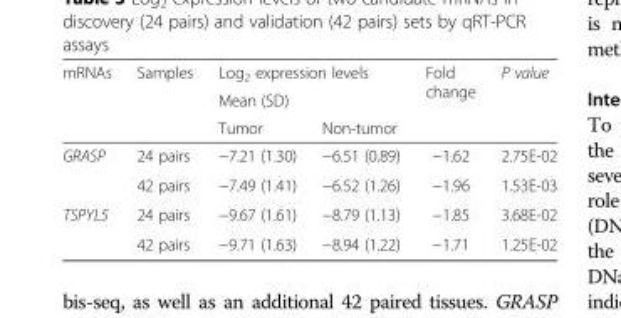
<table><thead><tr><td rowspan="3">mRNAs</td><td rowspan="3">Samples</td><td rowspan="2" colspan="2">Log<sub>2</sub> expression levels Mean (SD)</td><td rowspan="3">Fold change</td><td rowspan="3">P value</td></tr><tr></tr><tr><td>Tumor</td><td>Non-tumor</td></tr></thead><tbody><tr><td rowspan="2">GRASP</td><td>24 pairs</td><td>−7.21 (1.30)</td><td>−6.51 (0.89)</td><td>−1.62</td><td>2.75E-02</td></tr><tr><td>42 pairs</td><td>−7.49 (1.41)</td><td>−6.52 (1.26)</td><td>−1.96</td><td>1.53E-03</td></tr><tr><td rowspan="2">TSPYL5</td><td>24 pairs</td><td>−9.67 (1.61)</td><td>−8.79 (1.13)</td><td>−1.85</td><td>3.68E-02</td></tr><tr><td>42 pairs</td><td>−9.71 (1.63)</td><td>−8.94 (1.22)</td><td>−1.71</td><td>1.25E-02</td></tr></tbody></table>